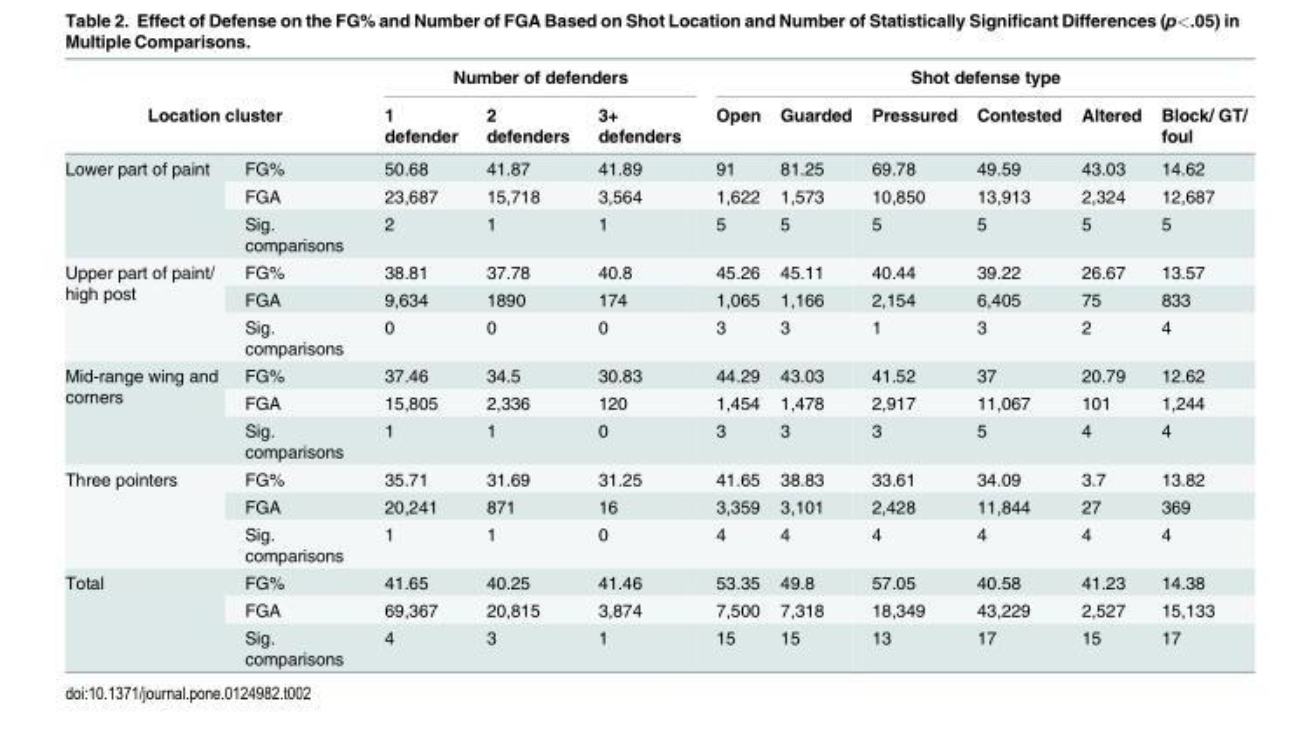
<table><thead><tr><td></td><td></td><td colspan="3">Number of defenders</td><td colspan="6">Shot defense type</td></tr><tr><td colspan="2">Location cluster</td><td>1 defender</td><td>2 defenders</td><td>3+ defenders</td><td>Open</td><td>Guarded</td><td>Pressured</td><td>Contested</td><td>Altered</td><td>Block/ GT/ foul</td></tr></thead><tbody><tr><td rowspan="3">Lower part of paint</td><td>FG%</td><td>50.68</td><td>41.87</td><td>41.89</td><td>91</td><td>81.25</td><td>69.78</td><td>49.59</td><td>43.03</td><td>14.62</td></tr><tr><td>FGA</td><td>23,687</td><td>15,718</td><td>3,564</td><td>1,622</td><td>1,573</td><td>10,850</td><td>13,913</td><td>2,324</td><td>12,687</td></tr><tr><td>Sig. comparisons</td><td>2</td><td>1</td><td>1</td><td>5</td><td>5</td><td>5</td><td>5</td><td>5</td><td>5</td></tr><tr><td rowspan="3">Upper part of paint/ high post</td><td>FG%</td><td>38.81</td><td>37.78</td><td>40.8</td><td>45.26</td><td>45.11</td><td>40.44</td><td>39.22</td><td>26.67</td><td>13.57</td></tr><tr><td>FGA</td><td>9,634</td><td>1890</td><td>174</td><td>1,065</td><td>1,166</td><td>2,154</td><td>6,405</td><td>75</td><td>833</td></tr><tr><td>Sig. comparisons</td><td>0</td><td>0</td><td>0</td><td>3</td><td>3</td><td>1</td><td>3</td><td>2</td><td>4</td></tr><tr><td rowspan="3">Mid-range wing and corners</td><td>FG%</td><td>37.46</td><td>34.5</td><td>30.83</td><td>44.29</td><td>43.03</td><td>41.52</td><td>37</td><td>20.79</td><td>12.62</td></tr><tr><td>FGA</td><td>15,805</td><td>2,336</td><td>120</td><td>1,454</td><td>1,478</td><td>2,917</td><td>11,067</td><td>101</td><td>1,244</td></tr><tr><td>Sig. comparisons</td><td>1</td><td>1</td><td>0</td><td>3</td><td>3</td><td>3</td><td>5</td><td>4</td><td>4</td></tr><tr><td rowspan="3">Three pointers</td><td>FG%</td><td>35.71</td><td>31.69</td><td>31.25</td><td>41.65</td><td>38.83</td><td>33.61</td><td>34.09</td><td>3.7</td><td>13.82</td></tr><tr><td>FGA</td><td>20,241</td><td>871</td><td>16</td><td>3,359</td><td>3,101</td><td>2,428</td><td>11,844</td><td>27</td><td>369</td></tr><tr><td>Sig. comparisons</td><td>1</td><td>1</td><td>0</td><td>4</td><td>4</td><td>4</td><td>4</td><td>4</td><td>4</td></tr><tr><td rowspan="3">Total</td><td>FG%</td><td>41.65</td><td>40.25</td><td>41.46</td><td>53.35</td><td>49.8</td><td>57.05</td><td>40.58</td><td>41.23</td><td>14.38</td></tr><tr><td>FGA</td><td>69,367</td><td>20,815</td><td>3,874</td><td>7,500</td><td>7,318</td><td>18,349</td><td>43,229</td><td>2,527</td><td>15,133</td></tr><tr><td>Sig. comparisons</td><td>4</td><td>3</td><td>1</td><td>15</td><td>15</td><td>13</td><td>17</td><td>15</td><td>17</td></tr></tbody></table>